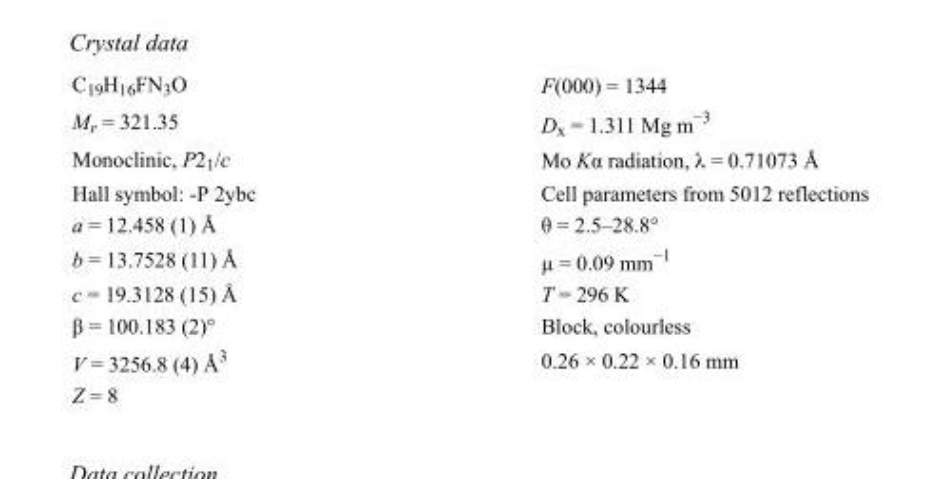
<table><tbody><tr><td>C<sub>19</sub>H<sub>16</sub>FN<sub>3</sub>O</td><td>F(000) = 1344</td></tr><tr><td>M<sub>r</sub> = 321.35</td><td>D<sub>x</sub> = 1.311 Mg m<sup>−3</sup></td></tr><tr><td>Monoclinic, P2<sub>1</sub>/c</td><td>Mo Kα radiation, λ = 0.71073 Å</td></tr><tr><td>Hall symbol: -P 2ybc</td><td>Cell parameters from 5012 reflections</td></tr><tr><td>a = 12.458 (1) Å</td><td>θ = 2.5–28.8°</td></tr><tr><td>b = 13.7528 (11) Å</td><td>µ = 0.09 mm<sup>−1</sup></td></tr><tr><td>c = 19.3128 (15) Å</td><td>T = 296 K</td></tr><tr><td>β = 100.183 (2)°</td><td>Block, colourless</td></tr><tr><td>V = 3256.8 (4) Å<sup>3</sup></td><td>0.26 × 0.22 × 0.16 mm</td></tr><tr><td>Z = 8</td><td></td></tr></tbody></table>